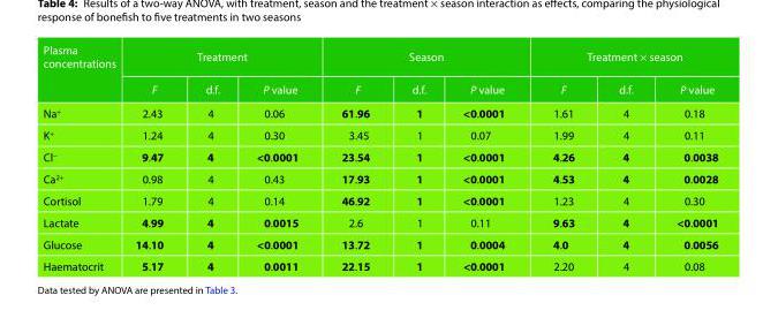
<table><thead><tr><td rowspan="2">Plasma concentrations</td><td colspan="3">Treatment</td><td colspan="3">Season</td><td colspan="3">Treatment × season</td></tr><tr><td>F</td><td>d.f.</td><td>P value</td><td>F</td><td>d.f.</td><td>P value</td><td>F</td><td>d.f.</td><td>P value</td></tr></thead><tbody><tr><td>Na<sup>+</sup></td><td>2.43</td><td>4</td><td>0.06</td><td>61.96</td><td>1</td><td>&lt;0.0001</td><td>1.61</td><td>4</td><td>0.18</td></tr><tr><td>K<sup>+</sup></td><td>1.24</td><td>4</td><td>0.30</td><td>3.45</td><td>1</td><td>0.07</td><td>1.99</td><td>4</td><td>0.11</td></tr><tr><td>Cl<sup>−</sup></td><td>9.47</td><td>4</td><td>&lt;0.0001</td><td>23.54</td><td>1</td><td>&lt;0.0001</td><td>4.26</td><td>4</td><td>0.0038</td></tr><tr><td>Ca<sup>2+</sup></td><td>0.98</td><td>4</td><td>0.43</td><td>17.93</td><td>1</td><td>&lt;0.0001</td><td>4.53</td><td>4</td><td>0.0028</td></tr><tr><td>Cortisol</td><td>1.79</td><td>4</td><td>0.14</td><td>46.92</td><td>1</td><td>&lt;0.0001</td><td>1.23</td><td>4</td><td>0.30</td></tr><tr><td>Lactate</td><td>4.99</td><td>4</td><td>0.0015</td><td>2.6</td><td>1</td><td>0.11</td><td>9.63</td><td>4</td><td>&lt;0.0001</td></tr><tr><td>Glucose</td><td>14.10</td><td>4</td><td>&lt;0.0001</td><td>13.72</td><td>1</td><td>0.0004</td><td>4.0</td><td>4</td><td>0.0056</td></tr><tr><td>Haematocrit</td><td>5.17</td><td>4</td><td>0.0011</td><td>22.15</td><td>1</td><td>&lt;0.0001</td><td>2.20</td><td>4</td><td>0.08</td></tr></tbody></table>